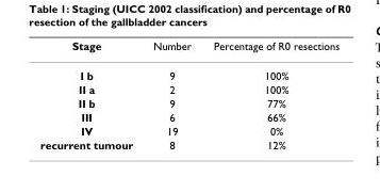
<table><thead><tr><td>Stage</td><td>Number</td><td>Percentage of R0 resections</td></tr></thead><tbody><tr><td>I b</td><td>9</td><td>100%</td></tr><tr><td>II a</td><td>2</td><td>100%</td></tr><tr><td>II b</td><td>9</td><td>77%</td></tr><tr><td>III</td><td>6</td><td>66%</td></tr><tr><td>IV</td><td>19</td><td>0%</td></tr><tr><td>recurrent tumour</td><td>8</td><td>12%</td></tr></tbody></table>